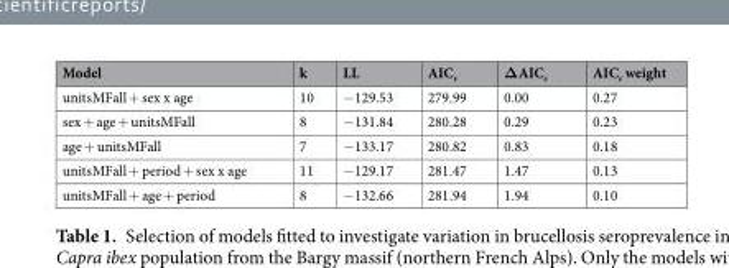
<table><thead><tr><td>Model</td><td>k</td><td>LL</td><td>AIC<sub>c</sub></td><td>ΔAIC<sub>c</sub></td><td>AIC<sub>c</sub> weight</td></tr></thead><tbody><tr><td>unitsMFall + sex x age</td><td>10</td><td>−129.53</td><td>279.99</td><td>0.00</td><td>0.27</td></tr><tr><td>sex + age + unitsMFall</td><td>8</td><td>−131.84</td><td>280.28</td><td>0.29</td><td>0.23</td></tr><tr><td>age + unitsMFall</td><td>7</td><td>−133.17</td><td>280.82</td><td>0.83</td><td>0.18</td></tr><tr><td>unitsMFall + period + sex x age</td><td>11</td><td>−129.17</td><td>281.47</td><td>1.47</td><td>0.13</td></tr><tr><td>unitsMFall + age + period</td><td>8</td><td>−132.66</td><td>281.94</td><td>1.94</td><td>0.10</td></tr></tbody></table>